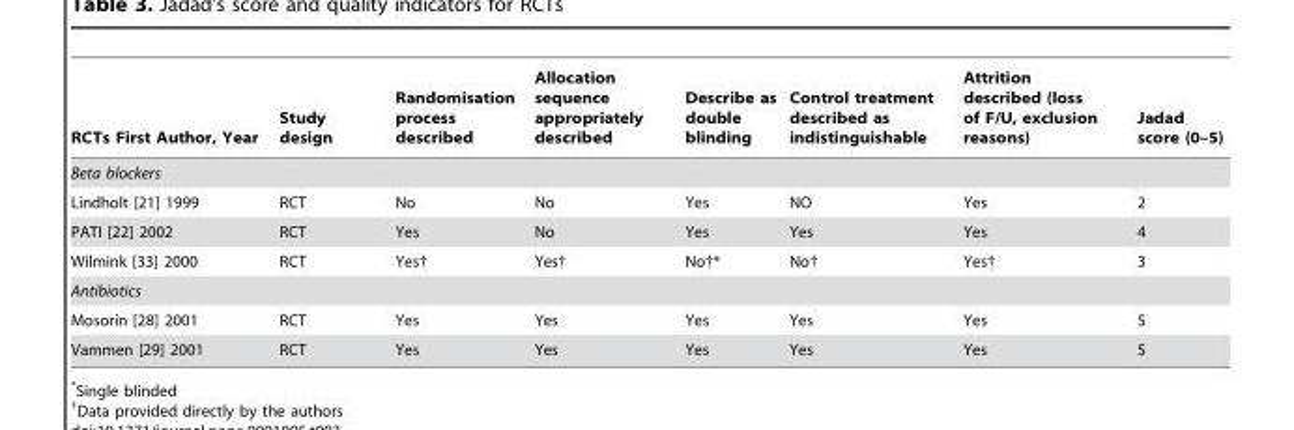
<table><thead><tr><td>RCTs First Author, Year</td><td>Study design</td><td>Randomisation process described</td><td>Allocation sequence appropriately described</td><td>Describe as double blinding</td><td>Control treatment described as indistinguishable</td><td>Attrition described (loss of F/U, exclusion reasons)</td><td>Jadad score (0–5)</td></tr></thead><tbody><tr><td colspan="8">Beta blockers</td></tr><tr><td>Lindholt [21] 1999</td><td>RCT</td><td>No</td><td>No</td><td>Yes</td><td>NO</td><td>Yes</td><td>2</td></tr><tr><td>PATI [22] 2002</td><td>RCT</td><td>Yes</td><td>No</td><td>Yes</td><td>Yes</td><td>Yes</td><td>4</td></tr><tr><td>Wilmink [33] 2000</td><td>RCT</td><td>Yes†</td><td>Yes†</td><td>No†*</td><td>No†</td><td>Yes†</td><td>3</td></tr><tr><td colspan="8">Antibiotics</td></tr><tr><td>Mosorin [28] 2001</td><td>RCT</td><td>Yes</td><td>Yes</td><td>Yes</td><td>Yes</td><td>Yes</td><td>5</td></tr><tr><td>Vammen [29] 2001</td><td>RCT</td><td>Yes</td><td>Yes</td><td>Yes</td><td>Yes</td><td>Yes</td><td>5</td></tr></tbody></table>